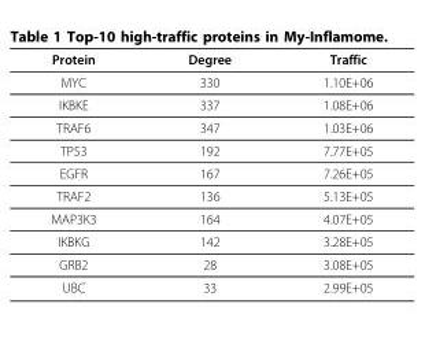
<table><thead><tr><td>Protein</td><td>Degree</td><td>Traffic</td></tr></thead><tbody><tr><td>MYC</td><td>330</td><td>1.10E+06</td></tr><tr><td>IKBKE</td><td>337</td><td>1.08E+06</td></tr><tr><td>TRAF6</td><td>347</td><td>1.03E+06</td></tr><tr><td>TP53</td><td>192</td><td>7.77E+05</td></tr><tr><td>EGFR</td><td>167</td><td>7.26E+05</td></tr><tr><td>TRAF2</td><td>136</td><td>5.13E+05</td></tr><tr><td>MAP3K3</td><td>164</td><td>4.07E+05</td></tr><tr><td>IKBKG</td><td>142</td><td>3.28E+05</td></tr><tr><td>GRB2</td><td>28</td><td>3.08E+05</td></tr><tr><td>UBC</td><td>33</td><td>2.99E+05</td></tr></tbody></table>